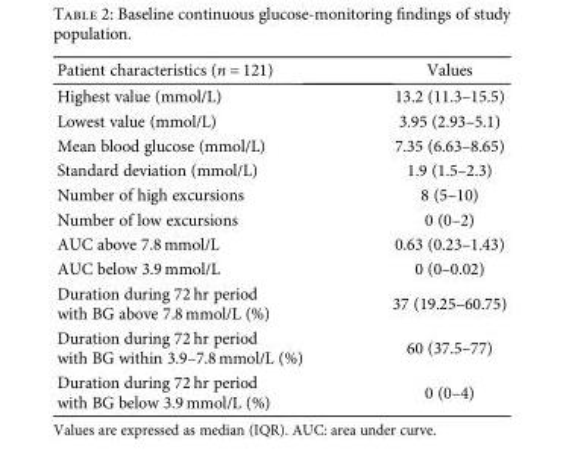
<table><thead><tr><td>Patient characteristics (n = 121)</td><td>Values</td></tr></thead><tbody><tr><td>Highest value (mmol/L)</td><td>13.2 (11.3–15.5)</td></tr><tr><td>Lowest value (mmol/L)</td><td>3.95 (2.93–5.1)</td></tr><tr><td>Mean blood glucose (mmol/L)</td><td>7.35 (6.63–8.65)</td></tr><tr><td>Standard deviation (mmol/L)</td><td>1.9 (1.5–2.3)</td></tr><tr><td>Number of high excursions</td><td>8 (5–10)</td></tr><tr><td>Number of low excursions</td><td>0 (0–2)</td></tr><tr><td>AUC above 7.8 mmol/L</td><td>0.63 (0.23–1.43)</td></tr><tr><td>AUC below 3.9 mmol/L</td><td>0 (0–0.02)</td></tr><tr><td>Duration during 72 hr period with BG above 7.8 mmol/L (%)</td><td>37 (19.25–60.75)</td></tr><tr><td>Duration during 72 hr period with BG within 3.9–7.8 mmol/L (%)</td><td>60 (37.5–77)</td></tr><tr><td>Duration during 72 hr period with BG below 3.9 mmol/L (%)</td><td>0 (0–4)</td></tr></tbody></table>